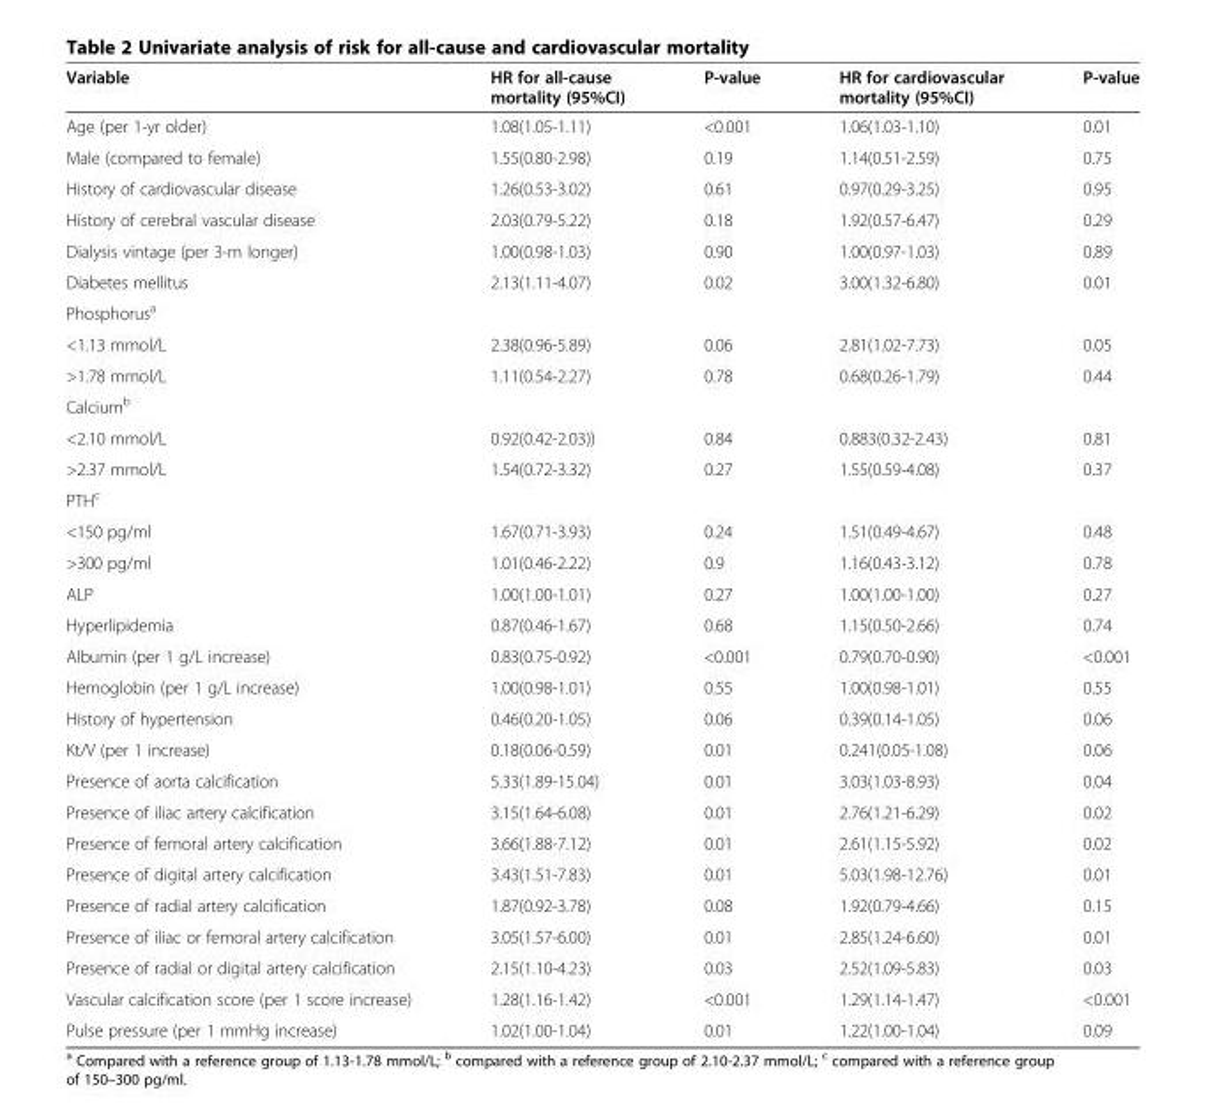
<table><thead><tr><td>Variable</td><td>HR for all-cause mortality (95%CI)</td><td>P-value</td><td>HR for cardiovascular mortality (95%CI)</td><td>P-value</td></tr></thead><tbody><tr><td>Age (per 1-yr older)</td><td>1.08(1.05-1.11)</td><td>&lt;0.001</td><td>1.06(1.03-1.10)</td><td>0.01</td></tr><tr><td>Male (compared to female)</td><td>1.55(0.80-2.98)</td><td>0.19</td><td>1.14(0.51-2.59)</td><td>0.75</td></tr><tr><td>History of cardiovascular disease</td><td>1.26(0.53-3.02)</td><td>0.61</td><td>0.97(0.29-3.25)</td><td>0.95</td></tr><tr><td>History of cerebral vascular disease</td><td>2.03(0.79-5.22)</td><td>0.18</td><td>1.92(0.57-6.47)</td><td>0.29</td></tr><tr><td>Dialysis vintage (per 3-m longer)</td><td>1.00(0.98-1.03)</td><td>0.90</td><td>1.00(0.97-1.03)</td><td>0.89</td></tr><tr><td>Diabetes mellitus</td><td>2.13(1.11-4.07)</td><td>0.02</td><td>3.00(1.32-6.80)</td><td>0.01</td></tr><tr><td colspan="5">Phosphorus<sup>a</sup></td></tr><tr><td>&lt;1.13 mmol/L</td><td>2.38(0.96-5.89)</td><td>0.06</td><td>2.81(1.02-7.73)</td><td>0.05</td></tr><tr><td>&gt;1.78 mmol/L</td><td>1.11(0.54-2.27)</td><td>0.78</td><td>0.68(0.26-1.79)</td><td>0.44</td></tr><tr><td colspan="5">Calcium<sup>b</sup></td></tr><tr><td>&lt;2.10 mmol/L</td><td>0.92(0.42-2.03))</td><td>0.84</td><td>0.883(0.32-2.43)</td><td>0.81</td></tr><tr><td>&gt;2.37 mmol/L</td><td>1.54(0.72-3.32)</td><td>0.27</td><td>1.55(0.59-4.08)</td><td>0.37</td></tr><tr><td colspan="5">PTH<sup>c</sup></td></tr><tr><td>&lt;150 pg/ml</td><td>1.67(0.71-3.93)</td><td>0.24</td><td>1.51(0.49-4.67)</td><td>0.48</td></tr><tr><td>&gt;300 pg/ml</td><td>1.01(0.46-2.22)</td><td>0.9</td><td>1.16(0.43-3.12)</td><td>0.78</td></tr><tr><td>ALP</td><td>1.00(1.00-1.01)</td><td>0.27</td><td>1.00(1.00-1.00)</td><td>0.27</td></tr><tr><td>Hyperlipidemia</td><td>0.87(0.46-1.67)</td><td>0.68</td><td>1.15(0.50-2.66)</td><td>0.74</td></tr><tr><td>Albumin (per 1 g/L increase)</td><td>0.83(0.75-0.92)</td><td>&lt;0.001</td><td>0.79(0.70-0.90)</td><td>&lt;0.001</td></tr><tr><td>Hemoglobin (per 1 g/L increase)</td><td>1.00(0.98-1.01)</td><td>0.55</td><td>1.00(0.98-1.01)</td><td>0.55</td></tr><tr><td>History of hypertension</td><td>0.46(0.20-1.05)</td><td>0.06</td><td>0.39(0.14-1.05)</td><td>0.06</td></tr><tr><td>Kt/V (per 1 increase)</td><td>0.18(0.06-0.59)</td><td>0.01</td><td>0.241(0.05-1.08)</td><td>0.06</td></tr><tr><td>Presence of aorta calcification</td><td>5.33(1.89-15.04)</td><td>0.01</td><td>3.03(1.03-8.93)</td><td>0.04</td></tr><tr><td>Presence of iliac artery calcification</td><td>3.15(1.64-6.08)</td><td>0.01</td><td>2.76(1.21-6.29)</td><td>0.02</td></tr><tr><td>Presence of femoral artery calcification</td><td>3.66(1.88-7.12)</td><td>0.01</td><td>2.61(1.15-5.92)</td><td>0.02</td></tr><tr><td>Presence of digital artery calcification</td><td>3.43(1.51-7.83)</td><td>0.01</td><td>5.03(1.98-12.76)</td><td>0.01</td></tr><tr><td>Presence of radial artery calcification</td><td>1.87(0.92-3.78)</td><td>0.08</td><td>1.92(0.79-4.66)</td><td>0.15</td></tr><tr><td>Presence of iliac or femoral artery calcification</td><td>3.05(1.57-6.00)</td><td>0.01</td><td>2.85(1.24-6.60)</td><td>0.01</td></tr><tr><td>Presence of radial or digital artery calcification</td><td>2.15(1.10-4.23)</td><td>0.03</td><td>2.52(1.09-5.83)</td><td>0.03</td></tr><tr><td>Vascular calcification score (per 1 score increase)</td><td>1.28(1.16-1.42)</td><td>&lt;0.001</td><td>1.29(1.14-1.47)</td><td>&lt;0.001</td></tr><tr><td>Pulse pressure (per 1 mmHg increase)</td><td>1.02(1.00-1.04)</td><td>0.01</td><td>1.22(1.00-1.04)</td><td>0.09</td></tr></tbody></table>